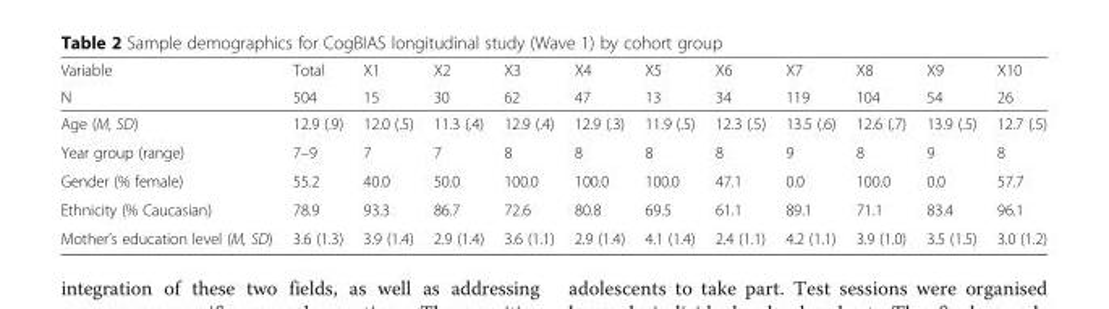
<table><thead><tr><td rowspan="2">Variable N</td><td rowspan="2">Total 504</td><td rowspan="2">X1 15</td><td rowspan="2">X2 30</td><td rowspan="2">X3 62</td><td rowspan="2">X4 47</td><td rowspan="2">X5 13</td><td rowspan="2">X6 34</td><td rowspan="2">X7 119</td><td rowspan="2">X8 104</td><td rowspan="2">X9 54</td><td rowspan="2">X10 26</td></tr><tr></tr></thead><tbody><tr><td>Age (M, SD)</td><td>12.9 (.9)</td><td>12.0 (.5)</td><td>11.3 (.4)</td><td>12.9 (.4)</td><td>12.9 (.3)</td><td>11.9 (.5)</td><td>12.3 (.5)</td><td>13.5 (.6)</td><td>12.6 (.7)</td><td>13.9 (.5)</td><td>12.7 (.5)</td></tr><tr><td>Year group (range)</td><td>7–9</td><td>7</td><td>7</td><td>8</td><td>8</td><td>8</td><td>8</td><td>9</td><td>8</td><td>9</td><td>8</td></tr><tr><td>Gender (% female)</td><td>55.2</td><td>40.0</td><td>50.0</td><td>100.0</td><td>100.0</td><td>100.0</td><td>47.1</td><td>0.0</td><td>100.0</td><td>0.0</td><td>57.7</td></tr><tr><td>Ethnicity (% Caucasian)</td><td>78.9</td><td>93.3</td><td>86.7</td><td>72.6</td><td>80.8</td><td>69.5</td><td>61.1</td><td>89.1</td><td>71.1</td><td>83.4</td><td>96.1</td></tr><tr><td>Mother’s education level (M, SD)</td><td>3.6 (1.3)</td><td>3.9 (1.4)</td><td>2.9 (1.4)</td><td>3.6 (1.1)</td><td>2.9 (1.4)</td><td>4.1 (1.4)</td><td>2.4 (1.1)</td><td>4.2 (1.1)</td><td>3.9 (1.0)</td><td>3.5 (1.5)</td><td>3.0 (1.2)</td></tr></tbody></table>